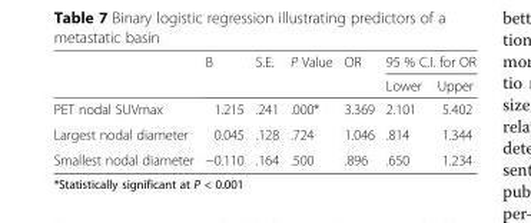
<table><thead><tr><td rowspan="2"></td><td rowspan="2">B</td><td rowspan="2">S.E.</td><td rowspan="2">P Value</td><td rowspan="2">OR</td><td colspan="2">95 % C.I. for OR</td></tr><tr><td>Lower</td><td>Upper</td></tr></thead><tbody><tr><td>PET nodal SUVmax</td><td>1.215</td><td>.241</td><td>.000*</td><td>3.369</td><td>2.101</td><td>5.402</td></tr><tr><td>Largest nodal diameter</td><td>0.045</td><td>.128</td><td>.724</td><td>1.046</td><td>.814</td><td>1.344</td></tr><tr><td>Smallest nodal diameter</td><td>−0.110</td><td>.164</td><td>.500</td><td>.896</td><td>.650</td><td>1.234</td></tr></tbody></table>